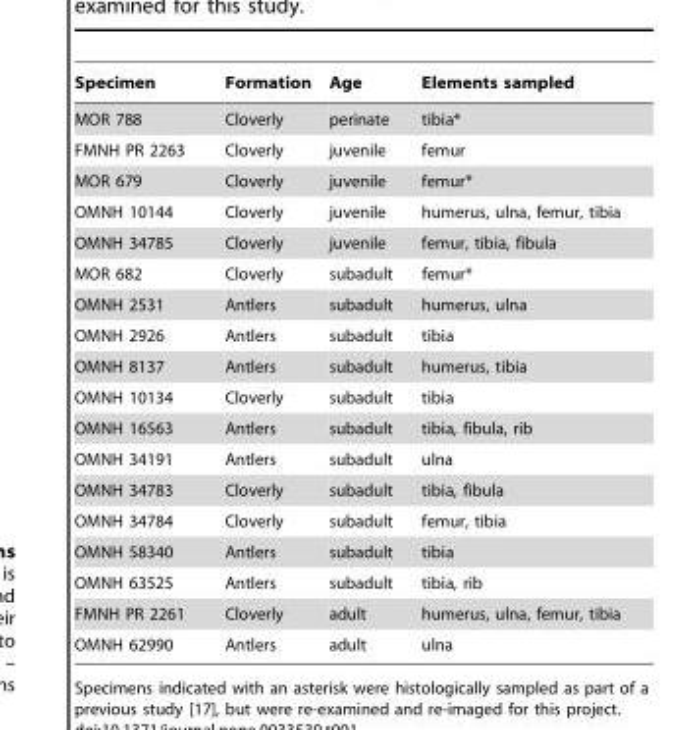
<table><thead><tr><td>Specimen</td><td>Formation</td><td>Age</td><td>Elements sampled</td></tr></thead><tbody><tr><td>MOR 788</td><td>Cloverly</td><td>perinate</td><td>tibia*</td></tr><tr><td>FMNH PR 2263</td><td>Cloverly</td><td>juvenile</td><td>femur</td></tr><tr><td>MOR 679</td><td>Cloverly</td><td>juvenile</td><td>femur*</td></tr><tr><td>OMNH 10144</td><td>Cloverly</td><td>juvenile</td><td>humerus, ulna, femur, tibia</td></tr><tr><td>OMNH 34785</td><td>Cloverly</td><td>juvenile</td><td>femur, tibia, fibula</td></tr><tr><td>MOR 682</td><td>Cloverly</td><td>subadult</td><td>femur*</td></tr><tr><td>OMNH 2531</td><td>Antlers</td><td>subadult</td><td>humerus, ulna</td></tr><tr><td>OMNH 2926</td><td>Antlers</td><td>subadult</td><td>tibia</td></tr><tr><td>OMNH 8137</td><td>Antlers</td><td>subadult</td><td>humerus, tibia</td></tr><tr><td>OMNH 10134</td><td>Cloverly</td><td>subadult</td><td>tibia</td></tr><tr><td>OMNH 16563</td><td>Antlers</td><td>subadult</td><td>tibia, fibula, rib</td></tr><tr><td>OMNH 34191</td><td>Antlers</td><td>subadult</td><td>ulna</td></tr><tr><td>OMNH 34783</td><td>Cloverly</td><td>subadult</td><td>tibia, fibula</td></tr><tr><td>OMNH 34784</td><td>Cloverly</td><td>subadult</td><td>femur, tibia</td></tr><tr><td>OMNH 58340</td><td>Antlers</td><td>subadult</td><td>tibia</td></tr><tr><td>OMNH 63525</td><td>Antlers</td><td>subadult</td><td>tibia, rib</td></tr><tr><td>FMNH PR 2261</td><td>Cloverly</td><td>adult</td><td>humerus, ulna, femur, tibia</td></tr><tr><td>OMNH 62990</td><td>Antlers</td><td>adult</td><td>ulna</td></tr></tbody></table>